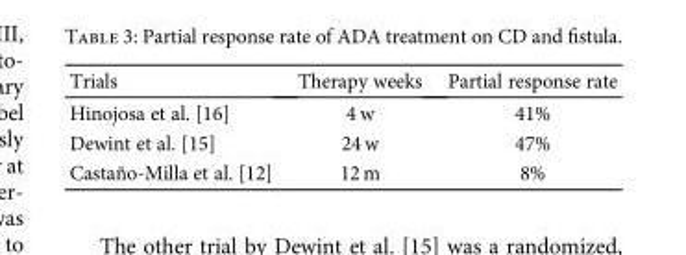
<table><thead><tr><td>Trials</td><td>Therapy weeks</td><td>Partial response rate</td></tr></thead><tbody><tr><td>Hinojosa et al. [16]</td><td>4 w</td><td>41%</td></tr><tr><td>Dewint et al. [15]</td><td>24 w</td><td>47%</td></tr><tr><td>Castaño-Milla et al. [12]</td><td>12 m</td><td>8%</td></tr></tbody></table>